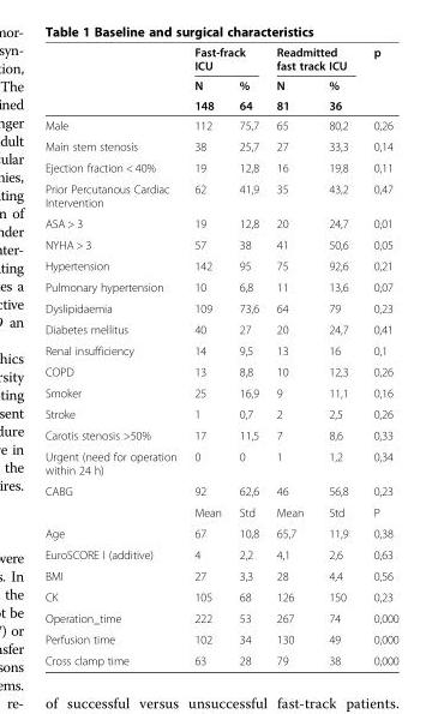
<table><thead><tr><td rowspan="3"></td><td colspan="2">Fast-frack ICU</td><td colspan="2">Readmitted fast track ICU</td><td rowspan="3">p</td></tr><tr><td rowspan="2">N 148</td><td rowspan="2">% 64</td><td rowspan="2">N 81</td><td rowspan="2">% 36</td></tr><tr></tr></thead><tbody><tr><td>Male</td><td>112</td><td>75,7</td><td>65</td><td>80,2</td><td>0,26</td></tr><tr><td>Main stem stenosis</td><td>38</td><td>25,7</td><td>27</td><td>33,3</td><td>0,14</td></tr><tr><td>Ejection fraction &lt; 40%</td><td>19</td><td>12,8</td><td>16</td><td>19,8</td><td>0,11</td></tr><tr><td>Prior Percutanous Cardiac Intervention</td><td>62</td><td>41,9</td><td>35</td><td>43,2</td><td>0,47</td></tr><tr><td>ASA &gt; 3</td><td>19</td><td>12,8</td><td>20</td><td>24,7</td><td>0,01</td></tr><tr><td>NYHA &gt; 3</td><td>57</td><td>38</td><td>41</td><td>50,6</td><td>0,05</td></tr><tr><td>Hypertension</td><td>142</td><td>95</td><td>75</td><td>92,6</td><td>0,21</td></tr><tr><td>Pulmonary hypertension</td><td>10</td><td>6,8</td><td>11</td><td>13,6</td><td>0,07</td></tr><tr><td>Dyslipidaemia</td><td>109</td><td>73,6</td><td>64</td><td>79</td><td>0,23</td></tr><tr><td>Diabetes mellitus</td><td>40</td><td>27</td><td>20</td><td>24,7</td><td>0,41</td></tr><tr><td>Renal insufficiency</td><td>14</td><td>9,5</td><td>13</td><td>16</td><td>0,1</td></tr><tr><td>COPD</td><td>13</td><td>8,8</td><td>10</td><td>12,3</td><td>0,26</td></tr><tr><td>Smoker</td><td>25</td><td>16,9</td><td>9</td><td>11,1</td><td>0,16</td></tr><tr><td>Stroke</td><td>1</td><td>0,7</td><td>2</td><td>2,5</td><td>0,26</td></tr><tr><td>Carotis stenosis &gt;50%</td><td>17</td><td>11,5</td><td>7</td><td>8,6</td><td>0,33</td></tr><tr><td>Urgent (need for operation within 24 h)</td><td>0</td><td>0</td><td>1</td><td>1,2</td><td>0,34</td></tr><tr><td rowspan="2">CABG</td><td>92</td><td>62,6</td><td>46</td><td>56,8</td><td>0,23</td></tr><tr><td>Mean</td><td>Std</td><td>Mean</td><td>Std</td><td>P</td></tr><tr><td>Age</td><td>67</td><td>10,8</td><td>65,7</td><td>11,9</td><td>0,38</td></tr><tr><td>EuroSCORE I (additive)</td><td>4</td><td>2,2</td><td>4,1</td><td>2,6</td><td>0,63</td></tr><tr><td>BMI</td><td>27</td><td>3,3</td><td>28</td><td>4,4</td><td>0,56</td></tr><tr><td>CK</td><td>105</td><td>68</td><td>126</td><td>150</td><td>0,23</td></tr><tr><td>Operation_time</td><td>222</td><td>53</td><td>267</td><td>74</td><td>0,000</td></tr><tr><td>Perfusion time</td><td>102</td><td>34</td><td>130</td><td>49</td><td>0,000</td></tr><tr><td>Cross clamp time</td><td>63</td><td>28</td><td>79</td><td>38</td><td>0,000</td></tr></tbody></table>